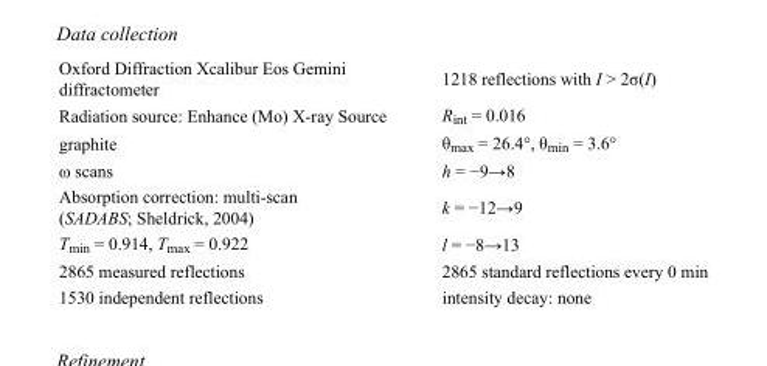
<table><tbody><tr><td>Oxford Diffraction Xcalibur Eos Gemini diffractometer</td><td>1218 reflections with I &gt; 2σ(I)</td></tr><tr><td>Radiation source: Enhance (Mo) X-ray Source</td><td>R<sub>int</sub> = 0.016</td></tr><tr><td>graphite</td><td>θ<sub>max</sub> = 26.4°, θ<sub>min</sub> = 3.6°</td></tr><tr><td>ω scans</td><td>h = −9→8</td></tr><tr><td>Absorption correction: multi-scan (SADABS; Sheldrick, 2004)</td><td>k = −12→9</td></tr><tr><td>T<sub>min</sub> = 0.914, T<sub>max</sub> = 0.922</td><td>l = −8→13</td></tr><tr><td>2865 measured reflections</td><td>2865 standard reflections every 0 min</td></tr><tr><td>1530 independent reflections</td><td>intensity decay: none</td></tr></tbody></table>